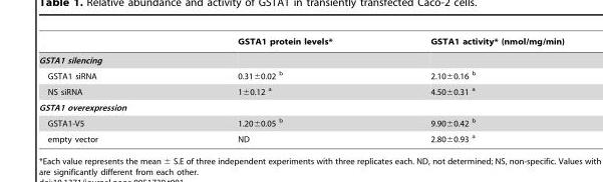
<table><thead><tr><td></td><td>GSTA1 protein levels*</td><td>GSTA1 activity* (nmol/mg/min)</td></tr></thead><tbody><tr><td colspan="3">GSTA1 silencing</td></tr><tr><td>GSTA1 siRNA</td><td>0.31±0.02 <sup>b</sup></td><td>2.10±0.16 <sup>b</sup></td></tr><tr><td>NS siRNA</td><td>1±0.12 <sup>a</sup></td><td>4.50±0.31 <sup>a</sup></td></tr><tr><td colspan="3">GSTA1 overexpression</td></tr><tr><td>GSTA1-V5</td><td>1.20±0.05 <sup>b</sup></td><td>9.90±0.42 <sup>b</sup></td></tr><tr><td>empty vector</td><td>ND</td><td>2.80±0.93 <sup>a</sup></td></tr></tbody></table>